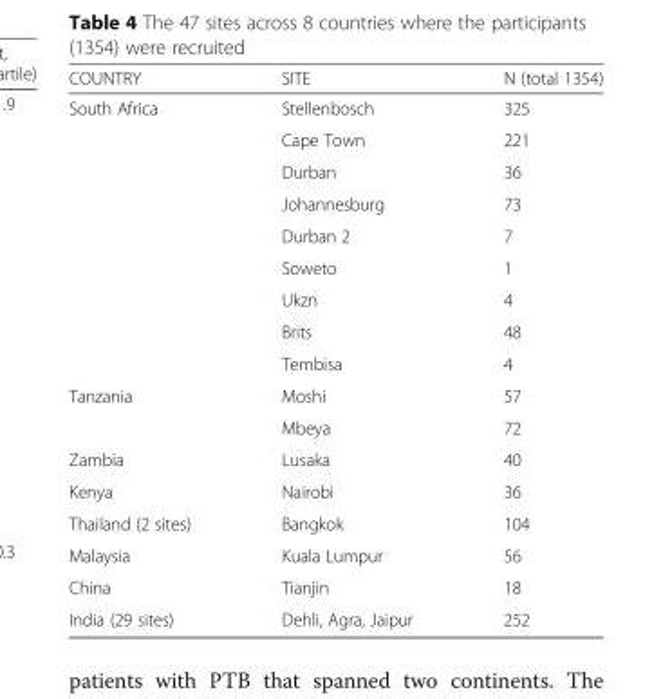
<table><thead><tr><td>COUNTRY</td><td>SITE</td><td>N (total 1354)</td></tr></thead><tbody><tr><td rowspan="9">South Africa</td><td>Stellenbosch</td><td>325</td></tr><tr><td>Cape Town</td><td>221</td></tr><tr><td>Durban</td><td>36</td></tr><tr><td>Johannesburg</td><td>73</td></tr><tr><td>Durban 2</td><td>7</td></tr><tr><td>Soweto</td><td>1</td></tr><tr><td>Ukzn</td><td>4</td></tr><tr><td>Brits</td><td>48</td></tr><tr><td>Tembisa</td><td>4</td></tr><tr><td rowspan="2">Tanzania</td><td>Moshi</td><td>57</td></tr><tr><td>Mbeya</td><td>72</td></tr><tr><td>Zambia</td><td>Lusaka</td><td>40</td></tr><tr><td>Kenya</td><td>Nairobi</td><td>36</td></tr><tr><td>Thailand (2 sites)</td><td>Bangkok</td><td>104</td></tr><tr><td>Malaysia</td><td>Kuala Lumpur</td><td>56</td></tr><tr><td>China</td><td>Tianjin</td><td>18</td></tr><tr><td>India (29 sites)</td><td>Dehli, Agra, Jaipur</td><td>252</td></tr></tbody></table>